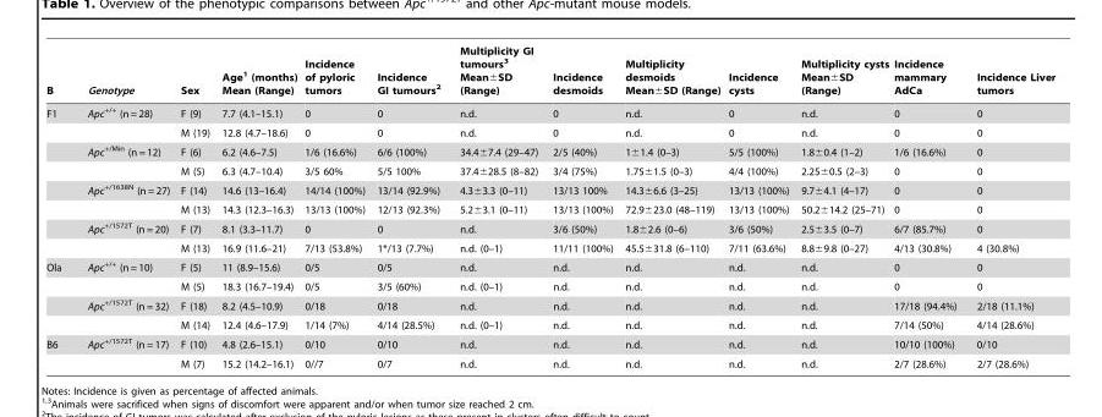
<table><thead><tr><td>B</td><td>Genotype</td><td>Sex</td><td>Age<sup>1</sup> (months) Mean (Range)</td><td>Incidence of pyloric tumors</td><td>Incidence GI tumours<sup>2</sup></td><td>Multiplicity GI tumours<sup>3</sup> Mean±SD (Range)</td><td>Incidence desmoids</td><td>Multiplicity desmoids Mean±SD (Range)</td><td>Incidence cysts</td><td>Multiplicity cysts Mean±SD (Range)</td><td>Incidence mammary AdCa</td><td>Incidence Liver tumors</td></tr></thead><tbody><tr><td rowspan="8">F1</td><td>Apc<sup>+/+</sup> (n = 28)</td><td>F (9)</td><td>7.7 (4.1–15.1)</td><td>0</td><td>0</td><td>n.d.</td><td>0</td><td>n.d.</td><td>0</td><td>n.d.</td><td>0</td><td>0</td></tr><tr><td></td><td>M (19)</td><td>12.8 (4.7–18.6)</td><td>0</td><td>0</td><td>n.d.</td><td>0</td><td>n.d.</td><td>0</td><td>n.d.</td><td>0</td><td>0</td></tr><tr><td>Apc<sup>+/Min</sup> (n = 12)</td><td>F (6)</td><td>6.2 (4.6–7.5)</td><td>1/6 (16.6%)</td><td>6/6 (100%)</td><td>34.4±7.4 (29–47)</td><td>2/5 (40%)</td><td>1±1.4 (0–3)</td><td>5/5 (100%)</td><td>1.8±0.4 (1–2)</td><td>1/6 (16.6%)</td><td>0</td></tr><tr><td></td><td>M (5)</td><td>6.3 (4.7–10.4)</td><td>3/5 60%</td><td>5/5 100%</td><td>37.4±28.5 (8–82)</td><td>3/4 (75%)</td><td>1.75±1.5 (0–3)</td><td>4/4 (100%)</td><td>2.25±0.5 (2–3)</td><td>0</td><td>0</td></tr><tr><td>Apc<sup>+/1638N</sup> (n = 27)</td><td>F (14)</td><td>14.6 (13–16.4)</td><td>14/14 (100%)</td><td>13/14 (92.9%)</td><td>4.3±3.3 (0–11)</td><td>13/13 100%</td><td>14.3±6.6 (3–25)</td><td>13/13 (100%)</td><td>9.7±4.1 (4–17)</td><td>0</td><td>0</td></tr><tr><td></td><td>M (13)</td><td>14.3 (12.3–16.3)</td><td>13/13 (100%)</td><td>12/13 (92.3%)</td><td>5.2±3.1 (0–11)</td><td>13/13 (100%)</td><td>72.9±23.0 (48–119)</td><td>13/13 (100%)</td><td>50.2±14.2 (25–71)</td><td>0</td><td>0</td></tr><tr><td>Apc<sup>+/1572T</sup> (n = 20)</td><td>F (7)</td><td>8.1 (3.3–11.7)</td><td>0</td><td>0</td><td>n.d.</td><td>3/6 (50%)</td><td>1.8±2.6 (0–6)</td><td>3/6 (50%)</td><td>2.5±3.5 (0–7)</td><td>6/7 (85.7%)</td><td>0</td></tr><tr><td></td><td>M (13)</td><td>16.9 (11.6–21)</td><td>7/13 (53.8%)</td><td>1*/13 (7.7%)</td><td>n.d. (0–1)</td><td>11/11 (100%)</td><td>45.5±31.8 (6–110)</td><td>7/11 (63.6%)</td><td>8.8±9.8 (0–27)</td><td>4/13 (30.8%)</td><td>4 (30.8%)</td></tr><tr><td rowspan="4">Ola</td><td>Apc<sup>+/+</sup> (n = 10)</td><td>F (5)</td><td>11 (8.9–15.6)</td><td>0/5</td><td>0/5</td><td>n.d.</td><td>n.d.</td><td>n.d.</td><td>n.d.</td><td>n.d.</td><td>0</td><td>0</td></tr><tr><td></td><td>M (5)</td><td>18.3 (16.7–19.4)</td><td>0/5</td><td>3/5 (60%)</td><td>n.d. (0–1)</td><td>n.d.</td><td>n.d.</td><td>n.d.</td><td>n.d.</td><td>0</td><td>0</td></tr><tr><td>Apc<sup>+/1572T</sup> (n = 32)</td><td>F (18)</td><td>8.2 (4.5–10.9)</td><td>0/18</td><td>0/18</td><td>n.d.</td><td>n.d.</td><td>n.d.</td><td>n.d.</td><td>n.d.</td><td>17/18 (94.4%)</td><td>2/18 (11.1%)</td></tr><tr><td></td><td>M (14)</td><td>12.4 (4.6–17.9)</td><td>1/14 (7%)</td><td>4/14 (28.5%)</td><td>n.d. (0–1)</td><td>n.d.</td><td>n.d.</td><td>n.d.</td><td>n.d.</td><td>7/14 (50%)</td><td>4/14 (28.6%)</td></tr><tr><td rowspan="2">B6</td><td>Apc<sup>+/1572T</sup> (n = 17)</td><td>F (10)</td><td>4.8 (2.6–15.1)</td><td>0/10</td><td>0/10</td><td>n.d.</td><td>n.d.</td><td>n.d.</td><td>n.d.</td><td>n.d.</td><td>10/10 (100%)</td><td>0/10</td></tr><tr><td></td><td>M (7)</td><td>15.2 (14.2–16.1)</td><td>0//7</td><td>0/7</td><td>n.d.</td><td>n.d.</td><td>n.d.</td><td>n.d.</td><td>n.d.</td><td>2/7 (28.6%)</td><td>2/7 (28.6%)</td></tr></tbody></table>